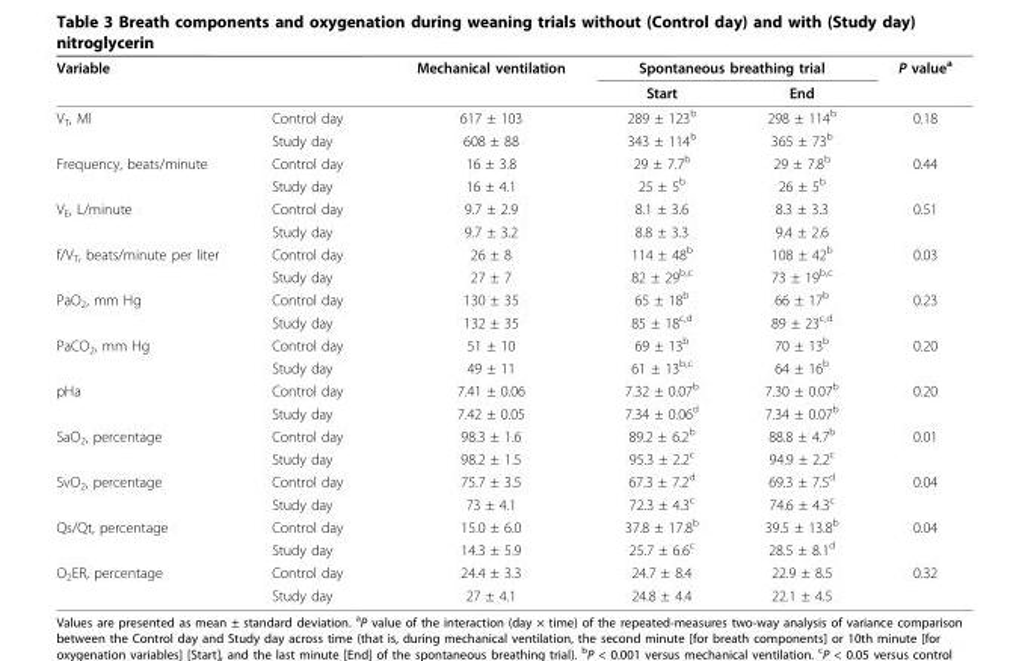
<table><thead><tr><td rowspan="2">Variable</td><td rowspan="2"></td><td rowspan="2">Mechanical ventilation</td><td colspan="2">Spontaneous breathing trial</td><td rowspan="2">P value<sup>a</sup></td></tr><tr><td>Start</td><td>End</td></tr></thead><tbody><tr><td rowspan="2">V<sub>T</sub>, Ml</td><td>Control day</td><td>617 ± 103</td><td>289 ± 123<sup>b</sup></td><td>298 ± 114<sup>b</sup></td><td>0.18</td></tr><tr><td>Study day</td><td>608 ± 88</td><td>343 ± 114<sup>b</sup></td><td>365 ± 73<sup>b</sup></td><td></td></tr><tr><td rowspan="2">Frequency, beats/minute</td><td>Control day</td><td>16 ± 3.8</td><td>29 ± 7.7<sup>b</sup></td><td>29 ± 7.8<sup>b</sup></td><td>0.44</td></tr><tr><td>Study day</td><td>16 ± 4.1</td><td>25 ± 5<sup>b</sup></td><td>26 ± 5<sup>b</sup></td><td></td></tr><tr><td rowspan="2">V<sub>E</sub>, L/minute</td><td>Control day</td><td>9.7 ± 2.9</td><td>8.1 ± 3.6</td><td>8.3 ± 3.3</td><td>0.51</td></tr><tr><td>Study day</td><td>9.7 ± 3.2</td><td>8.8 ± 3.3</td><td>9.4 ± 2.6</td><td></td></tr><tr><td rowspan="2">f/V<sub>T</sub>, beats/minute per liter</td><td>Control day</td><td>26 ± 8</td><td>114 ± 48<sup>b</sup></td><td>108 ± 42<sup>b</sup></td><td>0.03</td></tr><tr><td>Study day</td><td>27 ± 7</td><td>82 ± 29<sup>b,c</sup></td><td>73 ± 19<sup>b,c</sup></td><td></td></tr><tr><td rowspan="2">PaO<sub>2</sub>, mm Hg</td><td>Control day</td><td>130 ± 35</td><td>65 ± 18<sup>b</sup></td><td>66 ± 17<sup>b</sup></td><td>0.23</td></tr><tr><td>Study day</td><td>132 ± 35</td><td>85 ± 18<sup>c,d</sup></td><td>89 ± 23<sup>c,d</sup></td><td></td></tr><tr><td rowspan="2">PaCO<sub>2</sub>, mm Hg</td><td>Control day</td><td>51 ± 10</td><td>69 ± 13<sup>b</sup></td><td>70 ± 13<sup>b</sup></td><td>0.20</td></tr><tr><td>Study day</td><td>49 ± 11</td><td>61 ± 13<sup>b,c</sup></td><td>64 ± 16<sup>b</sup></td><td></td></tr><tr><td rowspan="2">pHa</td><td>Control day</td><td>7.41 ± 0.06</td><td>7.32 ± 0.07<sup>b</sup></td><td>7.30 ± 0.07<sup>b</sup></td><td>0.20</td></tr><tr><td>Study day</td><td>7.42 ± 0.05</td><td>7.34 ± 0.06<sup>d</sup></td><td>7.34 ± 0.07<sup>b</sup></td><td></td></tr><tr><td rowspan="2">SaO<sub>2</sub>, percentage</td><td>Control day</td><td>98.3 ± 1.6</td><td>89.2 ± 6.2<sup>b</sup></td><td>88.8 ± 4.7<sup>b</sup></td><td>0.01</td></tr><tr><td>Study day</td><td>98.2 ± 1.5</td><td>95.3 ± 2.2<sup>c</sup></td><td>94.9 ± 2.2<sup>c</sup></td><td></td></tr><tr><td rowspan="2">SvO<sub>2</sub>, percentage</td><td>Control day</td><td>75.7 ± 3.5</td><td>67.3 ± 7.2<sup>d</sup></td><td>69.3 ± 7.5<sup>d</sup></td><td>0.04</td></tr><tr><td>Study day</td><td>73 ± 4.1</td><td>72.3 ± 4.3<sup>c</sup></td><td>74.6 ± 4.3<sup>c</sup></td><td></td></tr><tr><td rowspan="2">Qs/Qt, percentage</td><td>Control day</td><td>15.0 ± 6.0</td><td>37.8 ± 17.8<sup>b</sup></td><td>39.5 ± 13.8<sup>b</sup></td><td>0.04</td></tr><tr><td>Study day</td><td>14.3 ± 5.9</td><td>25.7 ± 6.6<sup>c</sup></td><td>28.5 ± 8.1<sup>d</sup></td><td></td></tr><tr><td rowspan="2">O<sub>2</sub>ER, percentage</td><td>Control day</td><td>24.4 ± 3.3</td><td>24.7 ± 8.4</td><td>22.9 ± 8.5</td><td>0.32</td></tr><tr><td>Study day</td><td>27 ± 4.1</td><td>24.8 ± 4.4</td><td>22.1 ± 4.5</td><td></td></tr></tbody></table>